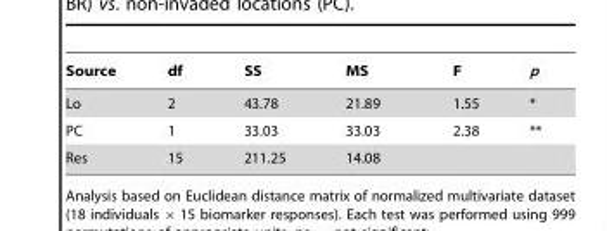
<table><thead><tr><td>Source</td><td>df</td><td>SS</td><td>MS</td><td>F</td><td>p</td></tr></thead><tbody><tr><td>Lo</td><td>2</td><td>43.78</td><td>21.89</td><td>1.55</td><td>*</td></tr><tr><td>PC</td><td>1</td><td>33.03</td><td>33.03</td><td>2.38</td><td>**</td></tr><tr><td>Res</td><td>15</td><td>211.25</td><td>14.08</td><td></td><td></td></tr></tbody></table>